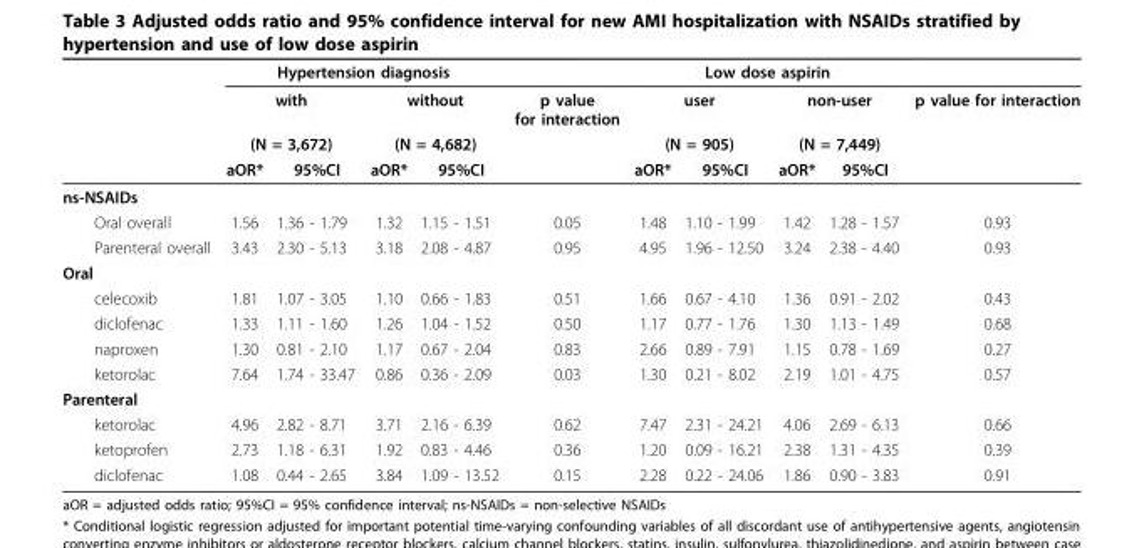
<table><thead><tr><td rowspan="4"></td><td colspan="4">Hypertension diagnosis</td><td rowspan="4">p value for interaction</td><td colspan="4">Low dose aspirin</td><td rowspan="4">p value for interaction</td></tr><tr><td rowspan="2" colspan="2">with (N = 3,672)</td><td rowspan="2" colspan="2">without (N = 4,682)</td><td rowspan="2" colspan="2">user (N = 905)</td><td rowspan="2" colspan="2">non-user (N = 7,449)</td></tr><tr></tr><tr><td>aOR*</td><td>95%CI</td><td>aOR*</td><td>95%CI</td><td>aOR*</td><td>95%CI</td><td>aOR*</td><td>95%CI</td></tr></thead><tbody><tr><td colspan="11">ns-NSAIDs</td></tr><tr><td>Oral overall</td><td>1.56</td><td>1.36 - 1.79</td><td>1.32</td><td>1.15 - 1.51</td><td>0.05</td><td>1.48</td><td>1.10 - 1.99</td><td>1.42</td><td>1.28 - 1.57</td><td>0.93</td></tr><tr><td>Parenteral overall</td><td>3.43</td><td>2.30 - 5.13</td><td>3.18</td><td>2.08 - 4.87</td><td>0.95</td><td>4.95</td><td>1.96 - 12.50</td><td>3.24</td><td>2.38 - 4.40</td><td>0.93</td></tr><tr><td colspan="11">Oral</td></tr><tr><td>celecoxib</td><td>1.81</td><td>1.07 - 3.05</td><td>1.10</td><td>0.66 - 1.83</td><td>0.51</td><td>1.66</td><td>0.67 - 4.10</td><td>1.36</td><td>0.91 - 2.02</td><td>0.43</td></tr><tr><td>diclofenac</td><td>1.33</td><td>1.11 - 1.60</td><td>1.26</td><td>1.04 - 1.52</td><td>0.50</td><td>1.17</td><td>0.77 - 1.76</td><td>1.30</td><td>1.13 - 1.49</td><td>0.68</td></tr><tr><td>naproxen</td><td>1.30</td><td>0.81 - 2.10</td><td>1.17</td><td>0.67 - 2.04</td><td>0.83</td><td>2.66</td><td>0.89 - 7.91</td><td>1.15</td><td>0.78 - 1.69</td><td>0.27</td></tr><tr><td>ketorolac</td><td>7.64</td><td>1.74 - 33.47</td><td>0.86</td><td>0.36 - 2.09</td><td>0.03</td><td>1.30</td><td>0.21 - 8.02</td><td>2.19</td><td>1.01 - 4.75</td><td>0.57</td></tr><tr><td colspan="11">Parenteral</td></tr><tr><td>ketorolac</td><td>4.96</td><td>2.82 - 8.71</td><td>3.71</td><td>2.16 - 6.39</td><td>0.62</td><td>7.47</td><td>2.31 - 24.21</td><td>4.06</td><td>2.69 - 6.13</td><td>0.66</td></tr><tr><td>ketoprofen</td><td>2.73</td><td>1.18 - 6.31</td><td>1.92</td><td>0.83 - 4.46</td><td>0.36</td><td>1.20</td><td>0.09 - 16.21</td><td>2.38</td><td>1.31 - 4.35</td><td>0.39</td></tr><tr><td>diclofenac</td><td>1.08</td><td>0.44 - 2.65</td><td>3.84</td><td>1.09 - 13.52</td><td>0.15</td><td>2.28</td><td>0.22 - 24.06</td><td>1.86</td><td>0.90 - 3.83</td><td>0.91</td></tr></tbody></table>